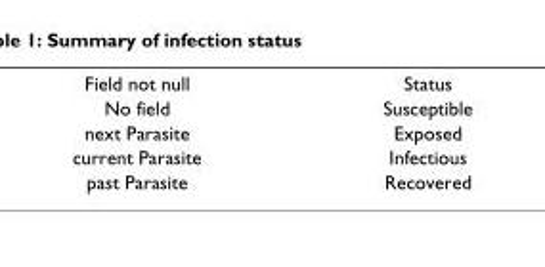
<table><tbody><tr><td>Field not null</td><td>Status</td></tr><tr><td>No field</td><td>Susceptible</td></tr><tr><td>next Parasite</td><td>Exposed</td></tr><tr><td>current Parasite</td><td>Infectious</td></tr><tr><td>past Parasite</td><td>Recovered</td></tr></tbody></table>